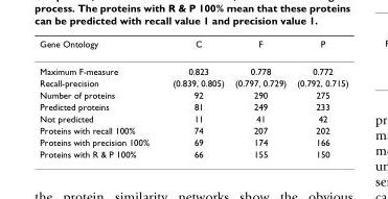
<table><thead><tr><td>Gene Ontology</td><td>C</td><td>F</td><td>P</td></tr></thead><tbody><tr><td>Maximum F-measure</td><td>0.823</td><td>0.778</td><td>0.772</td></tr><tr><td>Recall-precision</td><td>(0.839, 0.805)</td><td>(0.797, 0.729)</td><td>(0.792, 0.715)</td></tr><tr><td>Number of proteins</td><td>92</td><td>290</td><td>275</td></tr><tr><td>Predicted proteins</td><td>81</td><td>249</td><td>233</td></tr><tr><td>Not predicted</td><td>11</td><td>41</td><td>42</td></tr><tr><td>Proteins with recall 100%</td><td>74</td><td>207</td><td>202</td></tr><tr><td>Proteins with precision 100%</td><td>69</td><td>174</td><td>166</td></tr><tr><td>Proteins with R &amp; P 100%</td><td>66</td><td>155</td><td>150</td></tr></tbody></table>